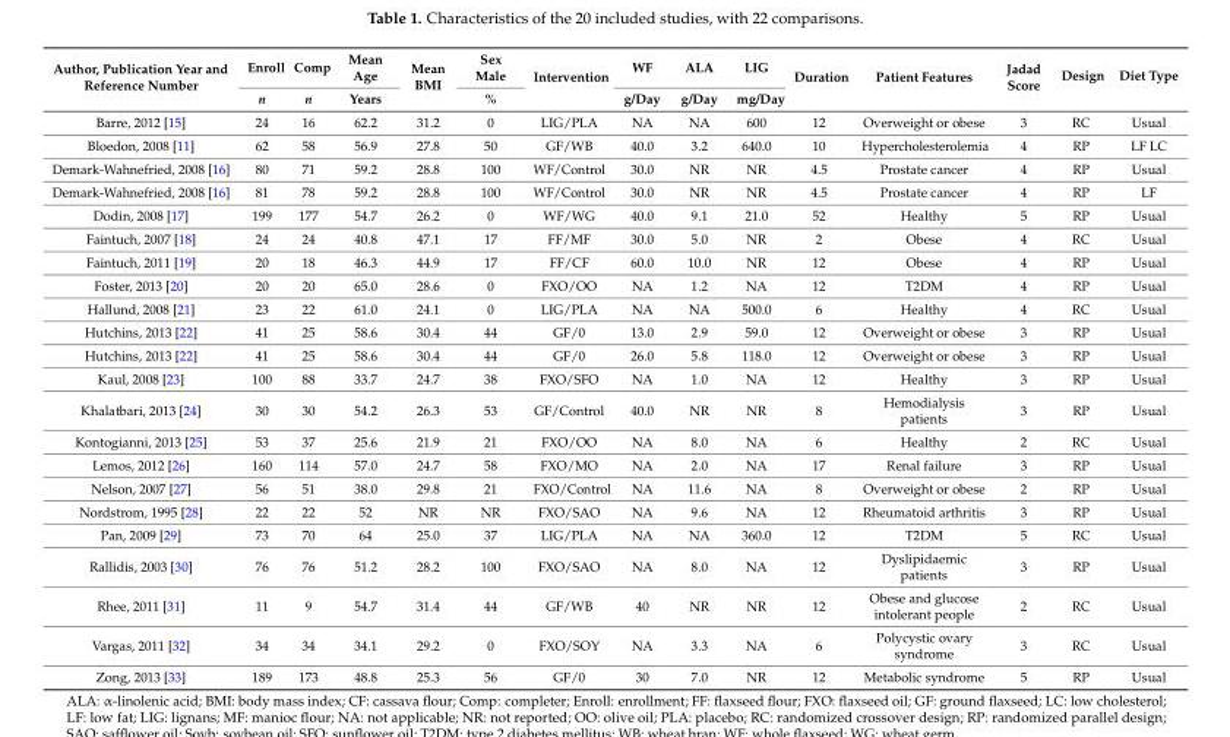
<table><thead><tr><td rowspan="2">Author, Publication Year and Reference Number</td><td rowspan="2">Enroll n</td><td rowspan="2">Comp n</td><td rowspan="2">Mean Age Years</td><td rowspan="2">Mean BMI</td><td rowspan="2">Sex Male %</td><td rowspan="2">Intervention</td><td rowspan="2">WF g/Day</td><td rowspan="2">ALA g/Day</td><td rowspan="2">LIG mg/Day</td><td rowspan="2">Duration</td><td rowspan="2">Patient Features</td><td rowspan="2">Jadad Score</td><td rowspan="2">Design</td><td rowspan="2">Diet Type</td></tr><tr></tr></thead><tbody><tr><td>Barre, 2012 [15]</td><td>24</td><td>16</td><td>62.2</td><td>31.2</td><td>0</td><td>LIG/PLA</td><td>NA</td><td>NA</td><td>600</td><td>12</td><td>Overweight or obese</td><td>3</td><td>RC</td><td>Usual</td></tr><tr><td>Bloedon, 2008 [11]</td><td>62</td><td>58</td><td>56.9</td><td>27.8</td><td>50</td><td>GF/WB</td><td>40.0</td><td>3.2</td><td>640.0</td><td>10</td><td>Hypercholesterolemia</td><td>4</td><td>RP</td><td>LF LC</td></tr><tr><td>Demark-Wahnefried, 2008 [16]</td><td>80</td><td>71</td><td>59.2</td><td>28.8</td><td>100</td><td>WF/Control</td><td>30.0</td><td>NR</td><td>NR</td><td>4.5</td><td>Prostate cancer</td><td>4</td><td>RP</td><td>Usual</td></tr><tr><td>Demark-Wahnefried, 2008 [16]</td><td>81</td><td>78</td><td>59.2</td><td>28.8</td><td>100</td><td>WF/Control</td><td>30.0</td><td>NR</td><td>NR</td><td>4.5</td><td>Prostate cancer</td><td>4</td><td>RP</td><td>LF</td></tr><tr><td>Dodin, 2008 [17]</td><td>199</td><td>177</td><td>54.7</td><td>26.2</td><td>0</td><td>WF/WG</td><td>40.0</td><td>9.1</td><td>21.0</td><td>52</td><td>Healthy</td><td>5</td><td>RP</td><td>Usual</td></tr><tr><td>Faintuch, 2007 [18]</td><td>24</td><td>24</td><td>40.8</td><td>47.1</td><td>17</td><td>FF/MF</td><td>30.0</td><td>5.0</td><td>NR</td><td>2</td><td>Obese</td><td>4</td><td>RC</td><td>Usual</td></tr><tr><td>Faintuch, 2011 [19]</td><td>20</td><td>18</td><td>46.3</td><td>44.9</td><td>17</td><td>FF/CF</td><td>60.0</td><td>10.0</td><td>NR</td><td>12</td><td>Obese</td><td>4</td><td>RP</td><td>Usual</td></tr><tr><td>Foster, 2013 [20]</td><td>20</td><td>20</td><td>65.0</td><td>28.6</td><td>0</td><td>FXO/OO</td><td>NA</td><td>1.2</td><td>NA</td><td>12</td><td>T2DM</td><td>4</td><td>RP</td><td>Usual</td></tr><tr><td>Hallund, 2008 [21]</td><td>23</td><td>22</td><td>61.0</td><td>24.1</td><td>0</td><td>LIG/PLA</td><td>NA</td><td>NA</td><td>500.0</td><td>6</td><td>Healthy</td><td>4</td><td>RC</td><td>Usual</td></tr><tr><td>Hutchins, 2013 [22]</td><td>41</td><td>25</td><td>58.6</td><td>30.4</td><td>44</td><td>GF/0</td><td>13.0</td><td>2.9</td><td>59.0</td><td>12</td><td>Overweight or obese</td><td>3</td><td>RP</td><td>Usual</td></tr><tr><td>Hutchins, 2013 [22]</td><td>41</td><td>25</td><td>58.6</td><td>30.4</td><td>44</td><td>GF/0</td><td>26.0</td><td>5.8</td><td>118.0</td><td>12</td><td>Overweight or obese</td><td>3</td><td>RP</td><td>Usual</td></tr><tr><td>Kaul, 2008 [23]</td><td>100</td><td>88</td><td>33.7</td><td>24.7</td><td>38</td><td>FXO/SFO</td><td>NA</td><td>1.0</td><td>NA</td><td>12</td><td>Healthy</td><td>3</td><td>RP</td><td>Usual</td></tr><tr><td>Khalatbari, 2013 [24]</td><td>30</td><td>30</td><td>54.2</td><td>26.3</td><td>53</td><td>GF/Control</td><td>40.0</td><td>NR</td><td>NR</td><td>8</td><td>Hemodialysis patients</td><td>3</td><td>RP</td><td>Usual</td></tr><tr><td>Kontogianni, 2013 [25]</td><td>53</td><td>37</td><td>25.6</td><td>21.9</td><td>21</td><td>FXO/OO</td><td>NA</td><td>8.0</td><td>NA</td><td>6</td><td>Healthy</td><td>2</td><td>RC</td><td>Usual</td></tr><tr><td>Lemos, 2012 [26]</td><td>160</td><td>114</td><td>57.0</td><td>24.7</td><td>58</td><td>FXO/MO</td><td>NA</td><td>2.0</td><td>NA</td><td>17</td><td>Renal failure</td><td>3</td><td>RP</td><td>Usual</td></tr><tr><td>Nelson, 2007 [27]</td><td>56</td><td>51</td><td>38.0</td><td>29.8</td><td>21</td><td>FXO/Control</td><td>NA</td><td>11.6</td><td>NA</td><td>8</td><td>Overweight or obese</td><td>2</td><td>RP</td><td>Usual</td></tr><tr><td>Nordstrom, 1995 [28]</td><td>22</td><td>22</td><td>52</td><td>NR</td><td>NR</td><td>FXO/SAO</td><td>NA</td><td>9.6</td><td>NA</td><td>12</td><td>Rheumatoid arthritis</td><td>3</td><td>RP</td><td>Usual</td></tr><tr><td>Pan, 2009 [29]</td><td>73</td><td>70</td><td>64</td><td>25.0</td><td>37</td><td>LIG/PLA</td><td>NA</td><td>NA</td><td>360.0</td><td>12</td><td>T2DM</td><td>5</td><td>RC</td><td>Usual</td></tr><tr><td>Rallidis, 2003 [30]</td><td>76</td><td>76</td><td>51.2</td><td>28.2</td><td>100</td><td>FXO/SAO</td><td>NA</td><td>8.0</td><td>NA</td><td>12</td><td>Dyslipidaemic patients</td><td>3</td><td>RP</td><td>Usual</td></tr><tr><td>Rhee, 2011 [31]</td><td>11</td><td>9</td><td>54.7</td><td>31.4</td><td>44</td><td>GF/WB</td><td>40</td><td>NR</td><td>NR</td><td>12</td><td>Obese and glucose intolerant people</td><td>2</td><td>RC</td><td>Usual</td></tr><tr><td>Vargas, 2011 [32]</td><td>34</td><td>34</td><td>34.1</td><td>29.2</td><td>0</td><td>FXO/SOY</td><td>NA</td><td>3.3</td><td>NA</td><td>6</td><td>Polycystic ovary syndrome</td><td>3</td><td>RC</td><td>Usual</td></tr><tr><td>Zong, 2013 [33]</td><td>189</td><td>173</td><td>48.8</td><td>25.3</td><td>56</td><td>GF/0</td><td>30</td><td>7.0</td><td>NR</td><td>12</td><td>Metabolic syndrome</td><td>5</td><td>RP</td><td>Usual</td></tr></tbody></table>